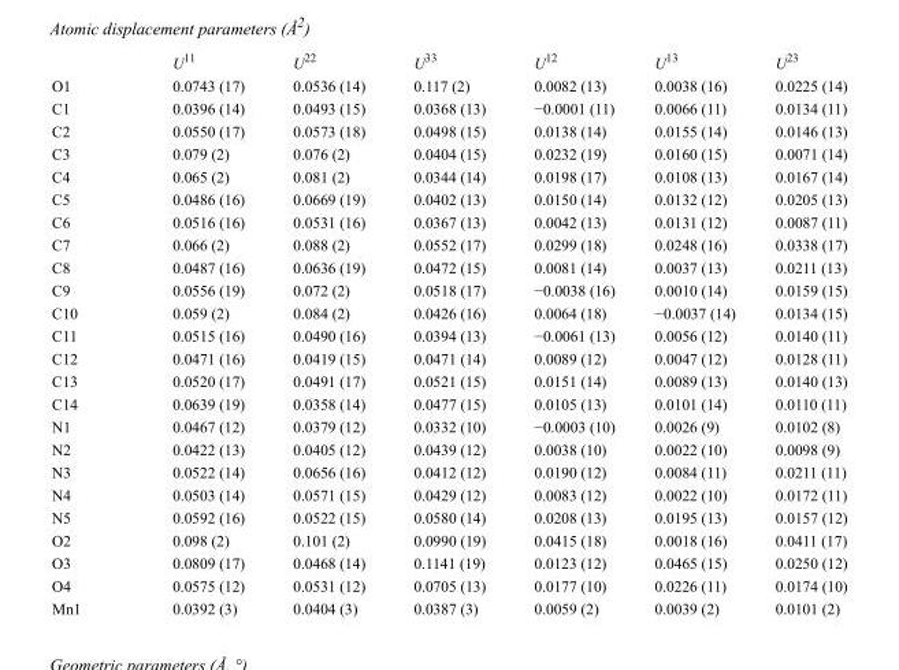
<table><thead><tr><td></td><td>U<sup>11</sup></td><td>U<sup>22</sup></td><td>U<sup>33</sup></td><td>U<sup>12</sup></td><td>U<sup>13</sup></td><td>U<sup>23</sup></td></tr></thead><tbody><tr><td>O1</td><td>0.0743 (17)</td><td>0.0536 (14)</td><td>0.117 (2)</td><td>0.0082 (13)</td><td>0.0038 (16)</td><td>0.0225 (14)</td></tr><tr><td>C1</td><td>0.0396 (14)</td><td>0.0493 (15)</td><td>0.0368 (13)</td><td>−0.0001 (11)</td><td>0.0066 (11)</td><td>0.0134 (11)</td></tr><tr><td>C2</td><td>0.0550 (17)</td><td>0.0573 (18)</td><td>0.0498 (15)</td><td>0.0138 (14)</td><td>0.0155 (14)</td><td>0.0146 (13)</td></tr><tr><td>C3</td><td>0.079 (2)</td><td>0.076 (2)</td><td>0.0404 (15)</td><td>0.0232 (19)</td><td>0.0160 (15)</td><td>0.0071 (14)</td></tr><tr><td>C4</td><td>0.065 (2)</td><td>0.081 (2)</td><td>0.0344 (14)</td><td>0.0198 (17)</td><td>0.0108 (13)</td><td>0.0167 (14)</td></tr><tr><td>C5</td><td>0.0486 (16)</td><td>0.0669 (19)</td><td>0.0402 (13)</td><td>0.0150 (14)</td><td>0.0132 (12)</td><td>0.0205 (13)</td></tr><tr><td>C6</td><td>0.0516 (16)</td><td>0.0531 (16)</td><td>0.0367 (13)</td><td>0.0042 (13)</td><td>0.0131 (12)</td><td>0.0087 (11)</td></tr><tr><td>C7</td><td>0.066 (2)</td><td>0.088 (2)</td><td>0.0552 (17)</td><td>0.0299 (18)</td><td>0.0248 (16)</td><td>0.0338 (17)</td></tr><tr><td>C8</td><td>0.0487 (16)</td><td>0.0636 (19)</td><td>0.0472 (15)</td><td>0.0081 (14)</td><td>0.0037 (13)</td><td>0.0211 (13)</td></tr><tr><td>C9</td><td>0.0556 (19)</td><td>0.072 (2)</td><td>0.0518 (17)</td><td>−0.0038 (16)</td><td>0.0010 (14)</td><td>0.0159 (15)</td></tr><tr><td>C10</td><td>0.059 (2)</td><td>0.084 (2)</td><td>0.0426 (16)</td><td>0.0064 (18)</td><td>−0.0037 (14)</td><td>0.0134 (15)</td></tr><tr><td>C11</td><td>0.0515 (16)</td><td>0.0490 (16)</td><td>0.0394 (13)</td><td>−0.0061 (13)</td><td>0.0056 (12)</td><td>0.0140 (11)</td></tr><tr><td>C12</td><td>0.0471 (16)</td><td>0.0419 (15)</td><td>0.0471 (14)</td><td>0.0089 (12)</td><td>0.0047 (12)</td><td>0.0128 (11)</td></tr><tr><td>C13</td><td>0.0520 (17)</td><td>0.0491 (17)</td><td>0.0521 (15)</td><td>0.0151 (14)</td><td>0.0089 (13)</td><td>0.0140 (13)</td></tr><tr><td>C14</td><td>0.0639 (19)</td><td>0.0358 (14)</td><td>0.0477 (15)</td><td>0.0105 (13)</td><td>0.0101 (14)</td><td>0.0110 (11)</td></tr><tr><td>N1</td><td>0.0467 (12)</td><td>0.0379 (12)</td><td>0.0332 (10)</td><td>−0.0003 (10)</td><td>0.0026 (9)</td><td>0.0102 (8)</td></tr><tr><td>N2</td><td>0.0422 (13)</td><td>0.0405 (12)</td><td>0.0439 (12)</td><td>0.0038 (10)</td><td>0.0022 (10)</td><td>0.0098 (9)</td></tr><tr><td>N3</td><td>0.0522 (14)</td><td>0.0656 (16)</td><td>0.0412 (12)</td><td>0.0190 (12)</td><td>0.0084 (11)</td><td>0.0211 (11)</td></tr><tr><td>N4</td><td>0.0503 (14)</td><td>0.0571 (15)</td><td>0.0429 (12)</td><td>0.0083 (12)</td><td>0.0022 (10)</td><td>0.0172 (11)</td></tr><tr><td>N5</td><td>0.0592 (16)</td><td>0.0522 (15)</td><td>0.0580 (14)</td><td>0.0208 (13)</td><td>0.0195 (13)</td><td>0.0157 (12)</td></tr><tr><td>O2</td><td>0.098 (2)</td><td>0.101 (2)</td><td>0.0990 (19)</td><td>0.0415 (18)</td><td>0.0018 (16)</td><td>0.0411 (17)</td></tr><tr><td>O3</td><td>0.0809 (17)</td><td>0.0468 (14)</td><td>0.1141 (19)</td><td>0.0123 (12)</td><td>0.0465 (15)</td><td>0.0250 (12)</td></tr><tr><td>O4</td><td>0.0575 (12)</td><td>0.0531 (12)</td><td>0.0705 (13)</td><td>0.0177 (10)</td><td>0.0226 (11)</td><td>0.0174 (10)</td></tr><tr><td>Mn1</td><td>0.0392 (3)</td><td>0.0404 (3)</td><td>0.0387 (3)</td><td>0.0059 (2)</td><td>0.0039 (2)</td><td>0.0101 (2)</td></tr></tbody></table>